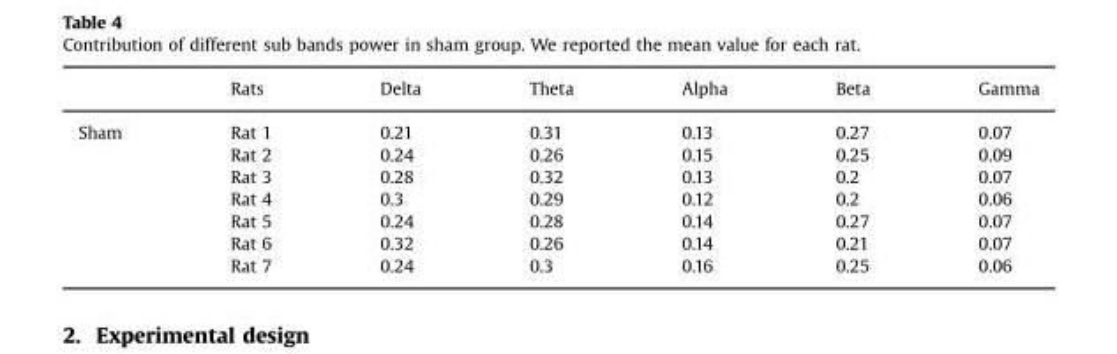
<table><thead><tr><td></td><td>Rats</td><td>Delta</td><td>Theta</td><td>Alpha</td><td>Beta</td><td>Gamma</td></tr></thead><tbody><tr><td rowspan="7">Sham</td><td>Rat 1</td><td>0.21</td><td>0.31</td><td>0.13</td><td>0.27</td><td>0.07</td></tr><tr><td>Rat 2</td><td>0.24</td><td>0.26</td><td>0.15</td><td>0.25</td><td>0.09</td></tr><tr><td>Rat 3</td><td>0.28</td><td>0.32</td><td>0.13</td><td>0.2</td><td>0.07</td></tr><tr><td>Rat 4</td><td>0.3</td><td>0.29</td><td>0.12</td><td>0.2</td><td>0.06</td></tr><tr><td>Rat 5</td><td>0.24</td><td>0.28</td><td>0.14</td><td>0.27</td><td>0.07</td></tr><tr><td>Rat 6</td><td>0.32</td><td>0.26</td><td>0.14</td><td>0.21</td><td>0.07</td></tr><tr><td>Rat 7</td><td>0.24</td><td>0.3</td><td>0.16</td><td>0.25</td><td>0.06</td></tr></tbody></table>